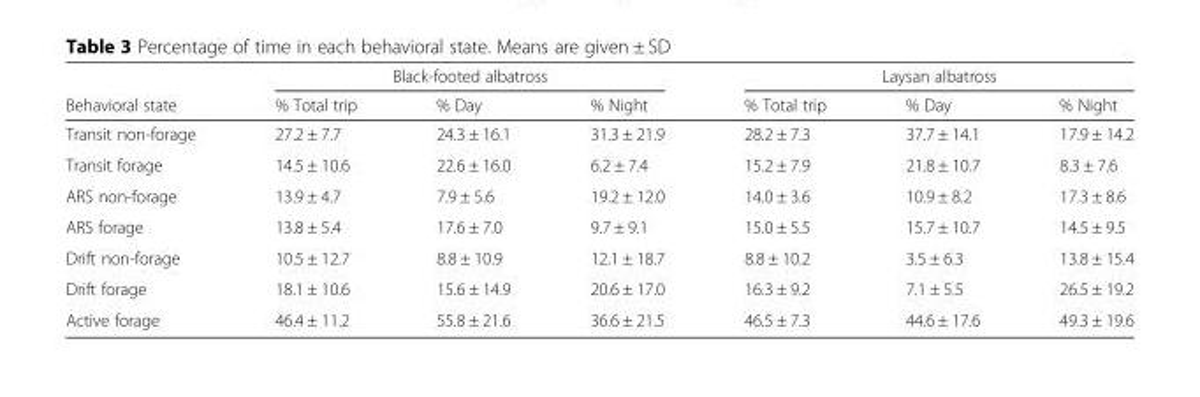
<table><thead><tr><td rowspan="2">Behavioral state</td><td colspan="3">Black-footed albatross</td><td colspan="3">Laysan albatross</td></tr><tr><td>% Total trip</td><td>% Day</td><td>% Night</td><td>% Total trip</td><td>% Day</td><td>% Night</td></tr></thead><tbody><tr><td>Transit non-forage</td><td>27.2 ± 7.7</td><td>24.3 ± 16.1</td><td>31.3 ± 21.9</td><td>28.2 ± 7.3</td><td>37.7 ± 14.1</td><td>17.9 ± 14.2</td></tr><tr><td>Transit forage</td><td>14.5 ± 10.6</td><td>22.6 ± 16.0</td><td>6.2 ± 7.4</td><td>15.2 ± 7.9</td><td>21.8 ± 10.7</td><td>8.3 ± 7.6</td></tr><tr><td>ARS non-forage</td><td>13.9 ± 4.7</td><td>7.9 ± 5.6</td><td>19.2 ± 12.0</td><td>14.0 ± 3.6</td><td>10.9 ± 8.2</td><td>17.3 ± 8.6</td></tr><tr><td>ARS forage</td><td>13.8 ± 5.4</td><td>17.6 ± 7.0</td><td>9.7 ± 9.1</td><td>15.0 ± 5.5</td><td>15.7 ± 10.7</td><td>14.5 ± 9.5</td></tr><tr><td>Drift non-forage</td><td>10.5 ± 12.7</td><td>8.8 ± 10.9</td><td>12.1 ± 18.7</td><td>8.8 ± 10.2</td><td>3.5 ± 6.3</td><td>13.8 ± 15.4</td></tr><tr><td>Drift forage</td><td>18.1 ± 10.6</td><td>15.6 ± 14.9</td><td>20.6 ± 17.0</td><td>16.3 ± 9.2</td><td>7.1 ± 5.5</td><td>26.5 ± 19.2</td></tr><tr><td>Active forage</td><td>46.4 ± 11.2</td><td>55.8 ± 21.6</td><td>36.6 ± 21.5</td><td>46.5 ± 7.3</td><td>44.6 ± 17.6</td><td>49.3 ± 19.6</td></tr></tbody></table>